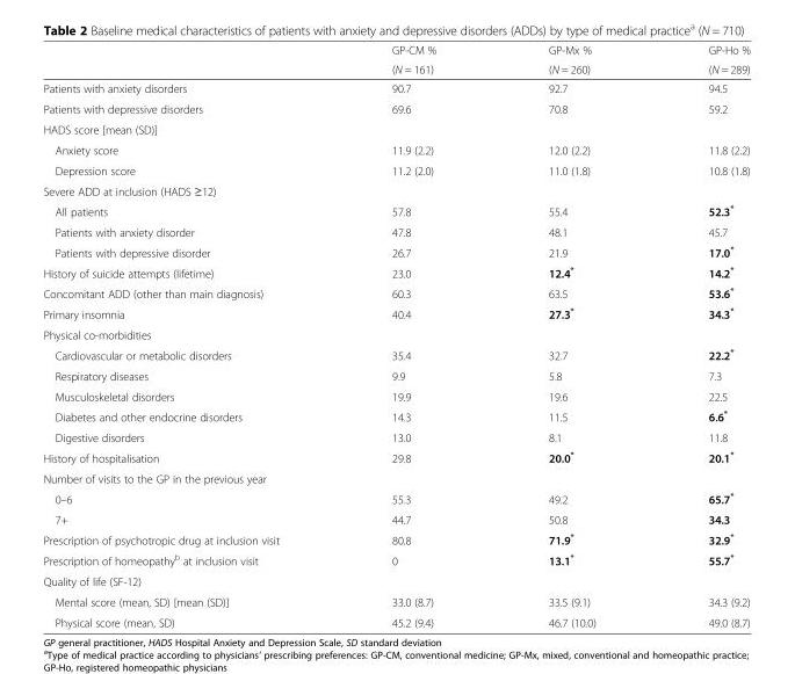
<table><thead><tr><td rowspan="2"></td><td rowspan="2">GP-CM % (N = 161)</td><td rowspan="2">GP-Mx % (N = 260)</td><td rowspan="2">GP-Ho % (N = 289)</td></tr><tr></tr></thead><tbody><tr><td>Patients with anxiety disorders</td><td>90.7</td><td>92.7</td><td>94.5</td></tr><tr><td>Patients with depressive disorders</td><td>69.6</td><td>70.8</td><td>59.2</td></tr><tr><td colspan="4">HADS score [mean (SD)]</td></tr><tr><td>Anxiety score</td><td>11.9 (2.2)</td><td>12.0 (2.2)</td><td>11.8 (2.2)</td></tr><tr><td>Depression score</td><td>11.2 (2.0)</td><td>11.0 (1.8)</td><td>10.8 (1.8)</td></tr><tr><td colspan="4">Severe ADD at inclusion (HADS ≥12)</td></tr><tr><td>All patients</td><td>57.8</td><td>55.4</td><td>52.3*</td></tr><tr><td>Patients with anxiety disorder</td><td>47.8</td><td>48.1</td><td>45.7</td></tr><tr><td>Patients with depressive disorder</td><td>26.7</td><td>21.9</td><td>17.0*</td></tr><tr><td>History of suicide attempts (lifetime)</td><td>23.0</td><td>12.4*</td><td>14.2*</td></tr><tr><td>Concomitant ADD (other than main diagnosis)</td><td>60.3</td><td>63.5</td><td>53.6*</td></tr><tr><td>Primary insomnia</td><td>40.4</td><td>27.3*</td><td>34.3*</td></tr><tr><td colspan="4">Physical co-morbidities</td></tr><tr><td>Cardiovascular or metabolic disorders</td><td>35.4</td><td>32.7</td><td>22.2*</td></tr><tr><td>Respiratory diseases</td><td>9.9</td><td>5.8</td><td>7.3</td></tr><tr><td>Musculoskeletal disorders</td><td>19.9</td><td>19.6</td><td>22.5</td></tr><tr><td>Diabetes and other endocrine disorders</td><td>14.3</td><td>11.5</td><td>6.6*</td></tr><tr><td>Digestive disorders</td><td>13.0</td><td>8.1</td><td>11.8</td></tr><tr><td>History of hospitalisation</td><td>29.8</td><td>20.0*</td><td>20.1*</td></tr><tr><td colspan="4">Number of visits to the GP in the previous year</td></tr><tr><td>0–6</td><td>55.3</td><td>49.2</td><td>65.7*</td></tr><tr><td>7+</td><td>44.7</td><td>50.8</td><td>34.3</td></tr><tr><td>Prescription of psychotropic drug at inclusion visit</td><td>80.8</td><td>71.9*</td><td>32.9*</td></tr><tr><td>Prescription of homeopathy<sup>b</sup> at inclusion visit</td><td>0</td><td>13.1*</td><td>55.7*</td></tr><tr><td colspan="4">Quality of life (SF-12)</td></tr><tr><td>Mental score (mean, SD) [mean (SD)]</td><td>33.0 (8.7)</td><td>33.5 (9.1)</td><td>34.3 (9.2)</td></tr><tr><td>Physical score (mean, SD)</td><td>45.2 (9.4)</td><td>46.7 (10.0)</td><td>49.0 (8.7)</td></tr></tbody></table>